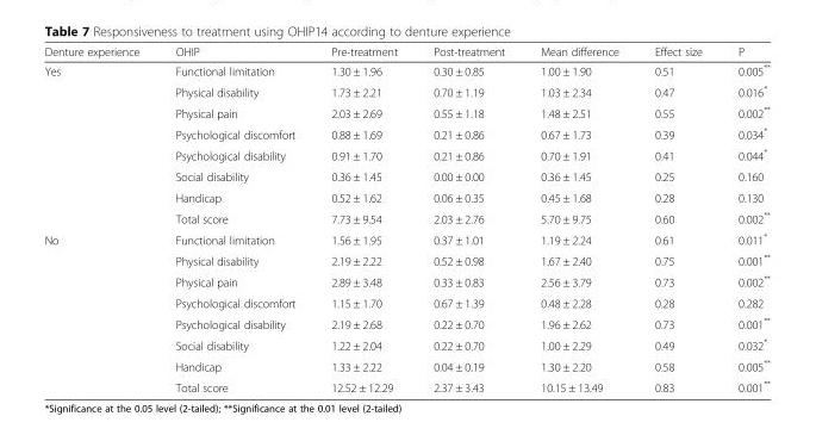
<table><thead><tr><td>Denture experience</td><td>OHIP</td><td>Pre-treatment</td><td>Post-treatment</td><td>Mean difference</td><td>Effect size</td><td>P</td></tr></thead><tbody><tr><td rowspan="8">Yes</td><td>Functional limitation</td><td>1.30 ± 1.96</td><td>0.30 ± 0.85</td><td>1.00 ± 1.90</td><td>0.51</td><td>0.005**</td></tr><tr><td>Physical disability</td><td>1.73 ± 2.21</td><td>0.70 ± 1.19</td><td>1.03 ± 2.34</td><td>0.47</td><td>0.016*</td></tr><tr><td>Physical pain</td><td>2.03 ± 2.69</td><td>0.55 ± 1.18</td><td>1.48 ± 2.51</td><td>0.55</td><td>0.002**</td></tr><tr><td>Psychological discomfort</td><td>0.88 ± 1.69</td><td>0.21 ± 0.86</td><td>0.67 ± 1.73</td><td>0.39</td><td>0.034*</td></tr><tr><td>Psychological disability</td><td>0.91 ± 1.70</td><td>0.21 ± 0.86</td><td>0.70 ± 1.91</td><td>0.41</td><td>0.044*</td></tr><tr><td>Social disability</td><td>0.36 ± 1.45</td><td>0.00 ± 0.00</td><td>0.36 ± 1.45</td><td>0.25</td><td>0.160</td></tr><tr><td>Handicap</td><td>0.52 ± 1.62</td><td>0.06 ± 0.35</td><td>0.45 ± 1.68</td><td>0.28</td><td>0.130</td></tr><tr><td>Total score</td><td>7.73 ± 9.54</td><td>2.03 ± 2.76</td><td>5.70 ± 9.75</td><td>0.60</td><td>0.002**</td></tr><tr><td rowspan="8">No</td><td>Functional limitation</td><td>1.56 ± 1.95</td><td>0.37 ± 1.01</td><td>1.19 ± 2.24</td><td>0.61</td><td>0.011*</td></tr><tr><td>Physical disability</td><td>2.19 ± 2.22</td><td>0.52 ± 0.98</td><td>1.67 ± 2.40</td><td>0.75</td><td>0.001**</td></tr><tr><td>Physical pain</td><td>2.89 ± 3.48</td><td>0.33 ± 0.83</td><td>2.56 ± 3.79</td><td>0.73</td><td>0.002**</td></tr><tr><td>Psychological discomfort</td><td>1.15 ± 1.70</td><td>0.67 ± 1.39</td><td>0.48 ± 2.28</td><td>0.28</td><td>0.282</td></tr><tr><td>Psychological disability</td><td>2.19 ± 2.68</td><td>0.22 ± 0.70</td><td>1.96 ± 2.62</td><td>0.73</td><td>0.001**</td></tr><tr><td>Social disability</td><td>1.22 ± 2.04</td><td>0.22 ± 0.70</td><td>1.00 ± 2.29</td><td>0.49</td><td>0.032*</td></tr><tr><td>Handicap</td><td>1.33 ± 2.22</td><td>0.04 ± 0.19</td><td>1.30 ± 2.20</td><td>0.58</td><td>0.005**</td></tr><tr><td>Total score</td><td>12.52 ± 12.29</td><td>2.37 ± 3.43</td><td>10.15 ± 13.49</td><td>0.83</td><td>0.001**</td></tr></tbody></table>